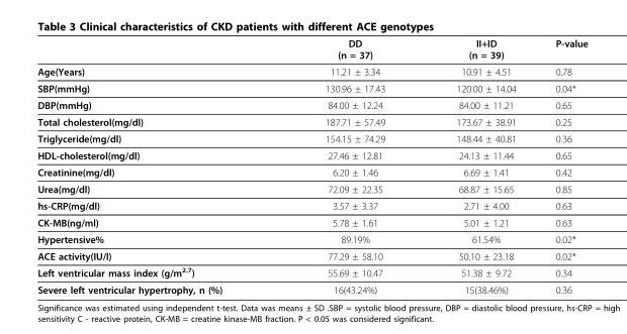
<table><thead><tr><td></td><td>DD (n = 37)</td><td>II+ID (n = 39)</td><td>P-value</td></tr></thead><tbody><tr><td>Age(Years)</td><td>11.21 ± 3.34</td><td>10.91 ± 4.51</td><td>0.78</td></tr><tr><td>SBP(mmHg)</td><td>130.96 ± 17.43</td><td>120.00 ± 14.04</td><td>0.04*</td></tr><tr><td>DBP(mmHg)</td><td>84.00 ± 12.24</td><td>84.00 ± 11.21</td><td>0.65</td></tr><tr><td>Total cholesterol(mg/dl)</td><td>187.71 ± 57.49</td><td>173.67 ± 38.91</td><td>0.25</td></tr><tr><td>Triglyceride(mg/dl)</td><td>154.15 ± 74.29</td><td>148.44 ± 40.81</td><td>0.36</td></tr><tr><td>HDL-cholesterol(mg/dl)</td><td>27.46 ± 12.81</td><td>24.13 ± 11.44</td><td>0.65</td></tr><tr><td>Creatinine(mg/dl)</td><td>6.20 ± 1.46</td><td>6.69 ± 1.41</td><td>0.42</td></tr><tr><td>Urea(mg/dl)</td><td>72.09 ± 22.35</td><td>68.87 ± 15.65</td><td>0.85</td></tr><tr><td>hs-CRP(mg/dl)</td><td>3.57 ± 3.37</td><td>2.71 ± 4.00</td><td>0.63</td></tr><tr><td>CK-MB(ng/ml)</td><td>5.78 ± 1.61</td><td>5.01 ± 1.21</td><td>0.63</td></tr><tr><td>Hypertensive%</td><td>89.19%</td><td>61.54%</td><td>0.02*</td></tr><tr><td>ACE activity(IU/l)</td><td>77.29 ± 58.10</td><td>50.10 ± 23.18</td><td>0.02*</td></tr><tr><td>Left ventricular mass index (g/m<sup>2.7</sup>)</td><td>55.69 ± 10.47</td><td>51.38 ± 9.72</td><td>0.34</td></tr><tr><td>Severe left ventricular hypertrophy, n (%)</td><td>16(43.24%)</td><td>15(38.46%)</td><td>0.36</td></tr></tbody></table>